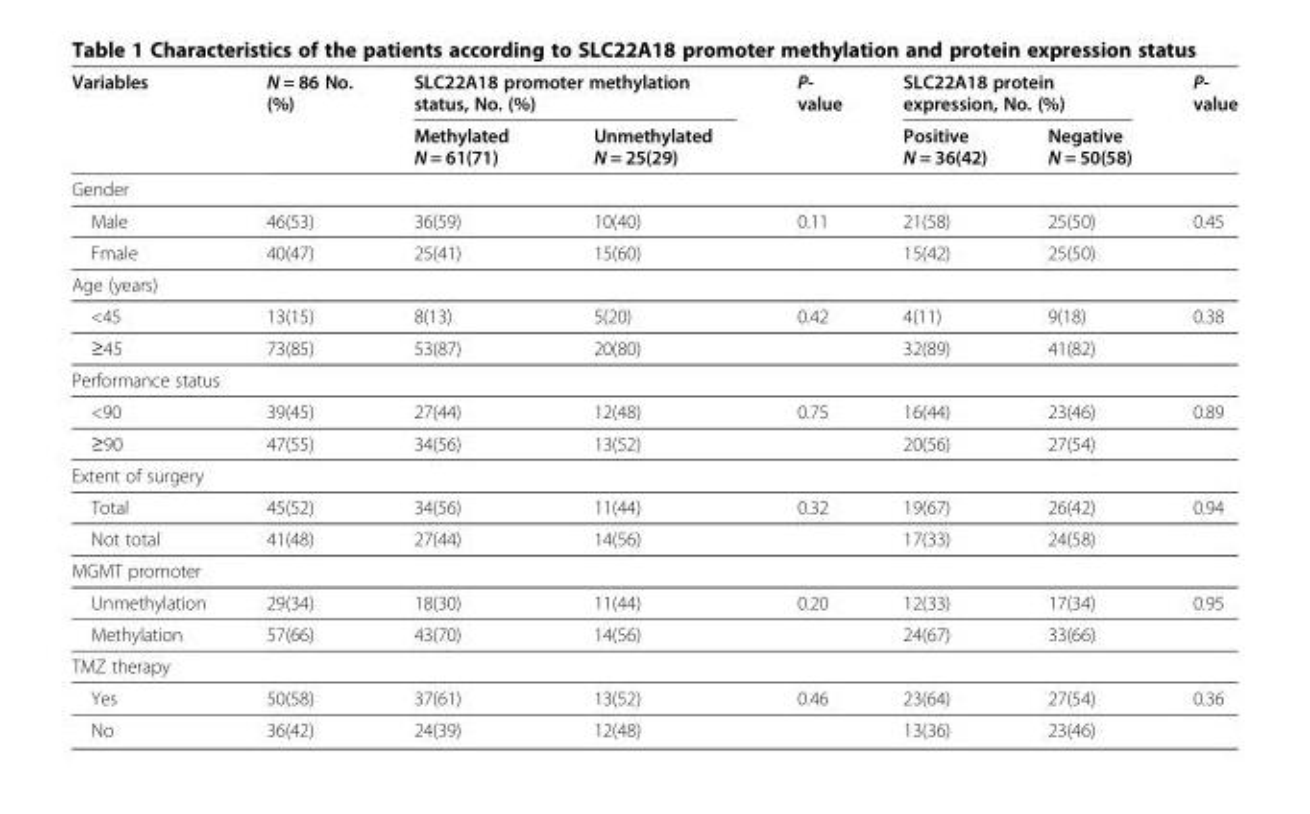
<table><thead><tr><td rowspan="2">Variables</td><td rowspan="2">N = 86 No. (%)</td><td colspan="2">SLC22A18 promoter methylation status, No. (%)</td><td rowspan="2">P- value</td><td colspan="2">SLC22A18 protein expression, No. (%)</td><td rowspan="2">P- value</td></tr><tr><td>Methylated N = 61(71)</td><td>Unmethylated N = 25(29)</td><td>Positive N = 36(42)</td><td>Negative N = 50(58)</td></tr></thead><tbody><tr><td colspan="8">Gender</td></tr><tr><td>Male</td><td>46(53)</td><td>36(59)</td><td>10(40)</td><td>0.11</td><td>21(58)</td><td>25(50)</td><td>0.45</td></tr><tr><td>Fmale</td><td>40(47)</td><td>25(41)</td><td>15(60)</td><td></td><td>15(42)</td><td>25(50)</td><td></td></tr><tr><td colspan="8">Age (years)</td></tr><tr><td>&lt;45</td><td>13(15)</td><td>8(13)</td><td>5(20)</td><td>0.42</td><td>4(11)</td><td>9(18)</td><td>0.38</td></tr><tr><td>≥45</td><td>73(85)</td><td>53(87)</td><td>20(80)</td><td></td><td>32(89)</td><td>41(82)</td><td></td></tr><tr><td colspan="8">Performance status</td></tr><tr><td>&lt;90</td><td>39(45)</td><td>27(44)</td><td>12(48)</td><td>0.75</td><td>16(44)</td><td>23(46)</td><td>0.89</td></tr><tr><td>≥90</td><td>47(55)</td><td>34(56)</td><td>13(52)</td><td></td><td>20(56)</td><td>27(54)</td><td></td></tr><tr><td colspan="8">Extent of surgery</td></tr><tr><td>Total</td><td>45(52)</td><td>34(56)</td><td>11(44)</td><td>0.32</td><td>19(67)</td><td>26(42)</td><td>0.94</td></tr><tr><td>Not total</td><td>41(48)</td><td>27(44)</td><td>14(56)</td><td></td><td>17(33)</td><td>24(58)</td><td></td></tr><tr><td colspan="8">MGMT promoter</td></tr><tr><td>Unmethylation</td><td>29(34)</td><td>18(30)</td><td>11(44)</td><td>0.20</td><td>12(33)</td><td>17(34)</td><td>0.95</td></tr><tr><td>Methylation</td><td>57(66)</td><td>43(70)</td><td>14(56)</td><td></td><td>24(67)</td><td>33(66)</td><td></td></tr><tr><td colspan="8">TMZ therapy</td></tr><tr><td>Yes</td><td>50(58)</td><td>37(61)</td><td>13(52)</td><td>0.46</td><td>23(64)</td><td>27(54)</td><td>0.36</td></tr><tr><td>No</td><td>36(42)</td><td>24(39)</td><td>12(48)</td><td></td><td>13(36)</td><td>23(46)</td><td></td></tr></tbody></table>